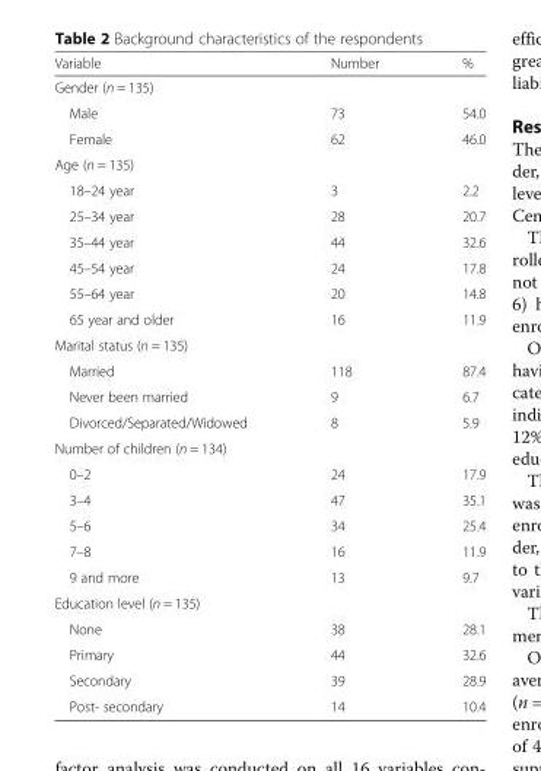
<table><thead><tr><td>Variable</td><td>Number</td><td>%</td></tr></thead><tbody><tr><td colspan="3">Gender (n = 135)</td></tr><tr><td>Male</td><td>73</td><td>54.0</td></tr><tr><td>Female</td><td>62</td><td>46.0</td></tr><tr><td colspan="3">Age (n = 135)</td></tr><tr><td>18–24 year</td><td>3</td><td>2.2</td></tr><tr><td>25–34 year</td><td>28</td><td>20.7</td></tr><tr><td>35–44 year</td><td>44</td><td>32.6</td></tr><tr><td>45–54 year</td><td>24</td><td>17.8</td></tr><tr><td>55–64 year</td><td>20</td><td>14.8</td></tr><tr><td>65 year and older</td><td>16</td><td>11.9</td></tr><tr><td colspan="3">Marital status (n = 135)</td></tr><tr><td>Married</td><td>118</td><td>87.4</td></tr><tr><td>Never been married</td><td>9</td><td>6.7</td></tr><tr><td>Divorced/Separated/Widowed</td><td>8</td><td>5.9</td></tr><tr><td colspan="3">Number of children (n = 134)</td></tr><tr><td>0–2</td><td>24</td><td>17.9</td></tr><tr><td>3–4</td><td>47</td><td>35.1</td></tr><tr><td>5–6</td><td>34</td><td>25.4</td></tr><tr><td>7–8</td><td>16</td><td>11.9</td></tr><tr><td>9 and more</td><td>13</td><td>9.7</td></tr><tr><td colspan="3">Education level (n = 135)</td></tr><tr><td>None</td><td>38</td><td>28.1</td></tr><tr><td>Primary</td><td>44</td><td>32.6</td></tr><tr><td>Secondary</td><td>39</td><td>28.9</td></tr><tr><td>Post- secondary</td><td>14</td><td>10.4</td></tr></tbody></table>